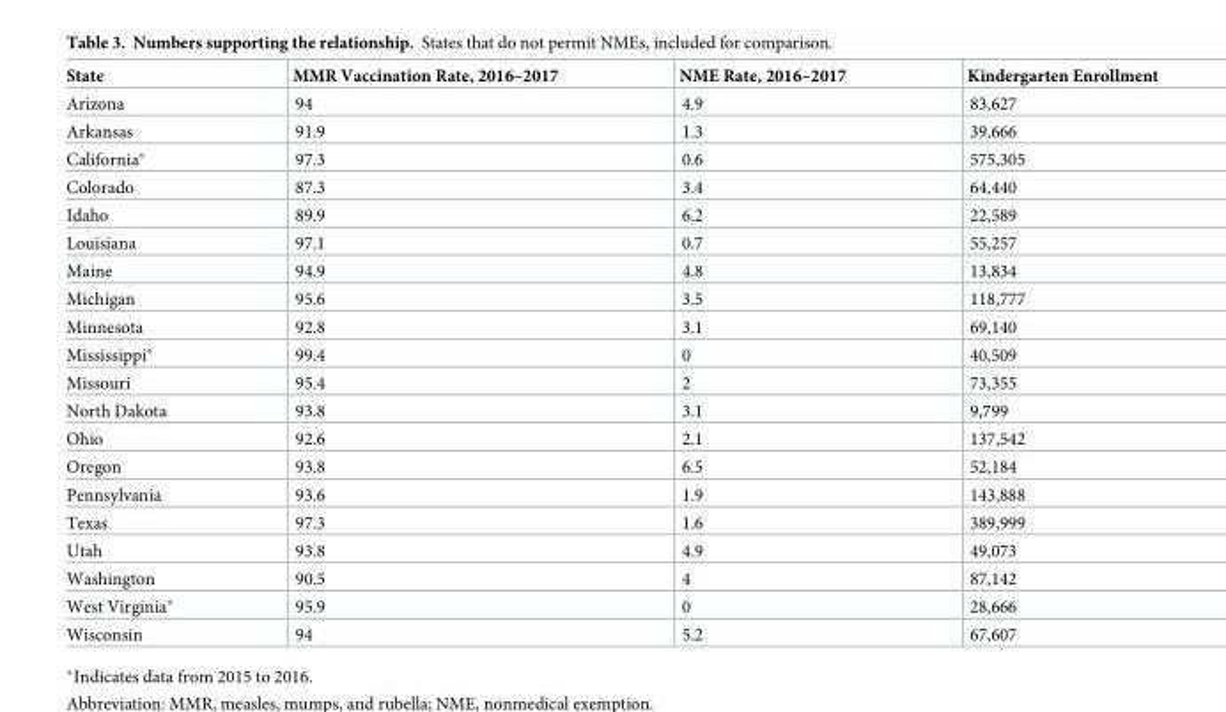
<table><thead><tr><td>State</td><td>MMR Vaccination Rate, 2016–2017</td><td>NME Rate, 2016–2017</td><td>Kindergarten Enrollment</td></tr></thead><tbody><tr><td>Arizona</td><td>94</td><td>4.9</td><td>83,627</td></tr><tr><td>Arkansas</td><td>91.9</td><td>1.3</td><td>39,666</td></tr><tr><td>California*</td><td>97.3</td><td>0.6</td><td>575,305</td></tr><tr><td>Colorado</td><td>87.3</td><td>3.4</td><td>64,440</td></tr><tr><td>Idaho</td><td>89.9</td><td>6.2</td><td>22,589</td></tr><tr><td>Louisiana</td><td>97.1</td><td>0.7</td><td>55,257</td></tr><tr><td>Maine</td><td>94.9</td><td>4.8</td><td>13,834</td></tr><tr><td>Michigan</td><td>95.6</td><td>3.5</td><td>118,777</td></tr><tr><td>Minnesota</td><td>92.8</td><td>3.1</td><td>69,140</td></tr><tr><td>Mississippi*</td><td>99.4</td><td>0</td><td>40,509</td></tr><tr><td>Missouri</td><td>95.4</td><td>2</td><td>73,355</td></tr><tr><td>North Dakota</td><td>93.8</td><td>3.1</td><td>9,799</td></tr><tr><td>Ohio</td><td>92.6</td><td>2.1</td><td>137,542</td></tr><tr><td>Oregon</td><td>93.8</td><td>6.5</td><td>52,184</td></tr><tr><td>Pennsylvania</td><td>93.6</td><td>1.9</td><td>143,888</td></tr><tr><td>Texas</td><td>97.3</td><td>1.6</td><td>389,999</td></tr><tr><td>Utah</td><td>93.8</td><td>4.9</td><td>49,073</td></tr><tr><td>Washington</td><td>90.5</td><td>4</td><td>87,142</td></tr><tr><td>West Virginia*</td><td>95.9</td><td>0</td><td>28,666</td></tr><tr><td>Wisconsin</td><td>94</td><td>5.2</td><td>67,607</td></tr></tbody></table>